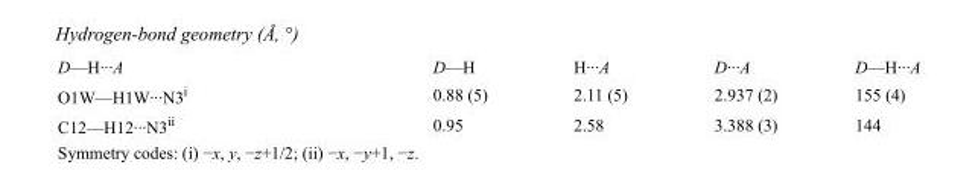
<table><tbody><tr><td>D—H···A</td><td>D—H</td><td>H···A</td><td>D···A</td><td>D—H···A</td></tr><tr><td>O1W—H1W···N3<sup>i</sup></td><td>0.88 (5)</td><td>2.11 (5)</td><td>2.937 (2)</td><td>155 (4)</td></tr><tr><td>C12—H12···N3<sup>ii</sup></td><td>0.95</td><td>2.58</td><td>3.388 (3)</td><td>144</td></tr></tbody></table>